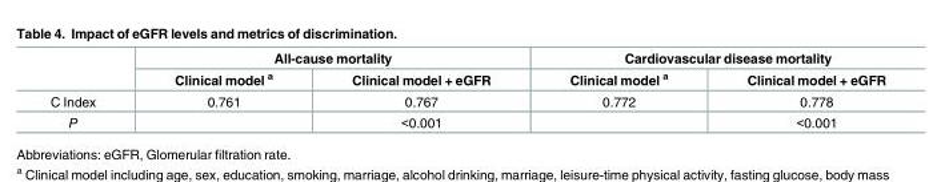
<table><thead><tr><td rowspan="2"></td><td colspan="2">All-cause mortality</td><td colspan="2">Cardiovascular disease mortality</td></tr><tr><td>Clinical model <sup>a</sup></td><td>Clinical model + eGFR</td><td>Clinical model <sup>a</sup></td><td>Clinical model + eGFR</td></tr></thead><tbody><tr><td>C Index</td><td>0.761</td><td>0.767</td><td>0.772</td><td>0.778</td></tr><tr><td>P</td><td></td><td>&lt;0.001</td><td></td><td>&lt;0.001</td></tr></tbody></table>